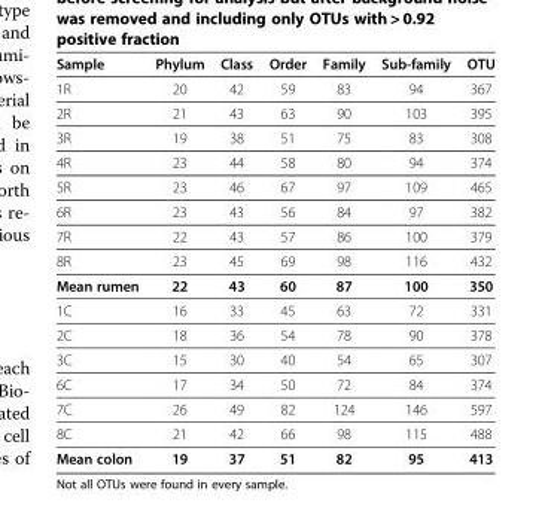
<table><thead><tr><td>Sample</td><td>Phylum</td><td>Class</td><td>Order</td><td>Family</td><td>Sub-family</td><td>OTU</td></tr></thead><tbody><tr><td>1R</td><td>20</td><td>42</td><td>59</td><td>83</td><td>94</td><td>367</td></tr><tr><td>2R</td><td>21</td><td>43</td><td>63</td><td>90</td><td>103</td><td>395</td></tr><tr><td>3R</td><td>19</td><td>38</td><td>51</td><td>75</td><td>83</td><td>308</td></tr><tr><td>4R</td><td>23</td><td>44</td><td>58</td><td>80</td><td>94</td><td>374</td></tr><tr><td>5R</td><td>23</td><td>46</td><td>67</td><td>97</td><td>109</td><td>465</td></tr><tr><td>6R</td><td>23</td><td>43</td><td>56</td><td>84</td><td>97</td><td>382</td></tr><tr><td>7R</td><td>22</td><td>43</td><td>57</td><td>86</td><td>100</td><td>379</td></tr><tr><td>8R</td><td>23</td><td>45</td><td>69</td><td>98</td><td>116</td><td>432</td></tr><tr><td>Mean rumen</td><td>22</td><td>43</td><td>60</td><td>87</td><td>100</td><td>350</td></tr><tr><td>1C</td><td>16</td><td>33</td><td>45</td><td>63</td><td>72</td><td>331</td></tr><tr><td>2C</td><td>18</td><td>36</td><td>54</td><td>78</td><td>90</td><td>378</td></tr><tr><td>3C</td><td>15</td><td>30</td><td>40</td><td>54</td><td>65</td><td>307</td></tr><tr><td>6C</td><td>17</td><td>34</td><td>50</td><td>72</td><td>84</td><td>374</td></tr><tr><td>7C</td><td>26</td><td>49</td><td>82</td><td>124</td><td>146</td><td>597</td></tr><tr><td>8C</td><td>21</td><td>42</td><td>66</td><td>98</td><td>115</td><td>488</td></tr><tr><td>Mean colon</td><td>19</td><td>37</td><td>51</td><td>82</td><td>95</td><td>413</td></tr></tbody></table>